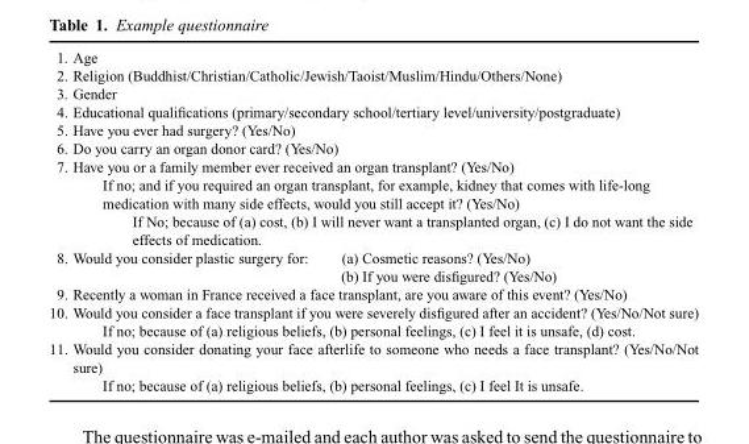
<table><tbody><tr><td>1.</td><td>Age</td></tr><tr><td>2.</td><td>Religion (Buddhist/Christian/Catholic/Jewish/Taoist/Muslim/Hindu/Others/None)</td></tr><tr><td>3.</td><td>Gender</td></tr><tr><td>4.</td><td>Educational qualifications (primary/secondary school/tertiary level/university/postgraduate)</td></tr><tr><td>5.</td><td>Have you ever had surgery? (Yes/No)</td></tr><tr><td>6.</td><td>Do you carry an organ donor card? (Yes/No)</td></tr><tr><td rowspan="3">7.</td><td>Have you or a family member ever received an organ transplant? (Yes/No)</td></tr><tr><td>If no; and if you required an organ transplant, for example, kidney that comes with life-long medication with many side effects, would you still accept it? (Yes/No)</td></tr><tr><td>If No; because of (a) cost, (b) I will never want a transplanted organ, (c) I do not want the side effects of medication.</td></tr><tr><td rowspan="2">8.</td><td>Would you consider plastic surgery for: (a) Cosmetic reasons? (Yes/No)</td></tr><tr><td>(b) If you were disfigured? (Yes/No)</td></tr><tr><td>9.</td><td>Recently a woman in France received a face transplant, are you aware of this event? (Yes/No)</td></tr><tr><td rowspan="2">10.</td><td>Would you consider a face transplant if you were severely disfigured after an accident? (Yes/No/Not sure)</td></tr><tr><td>If no; because of (a) religious beliefs, (b) personal feelings, (c) I feel it is unsafe, (d) cost.</td></tr><tr><td rowspan="2">11.</td><td>Would you consider donating your face afterlife to someone who needs a face transplant? (Yes/No/Not sure)</td></tr><tr><td>If no; because of (a) religious beliefs, (b) personal feelings, (c) I feel It is unsafe.</td></tr></tbody></table>